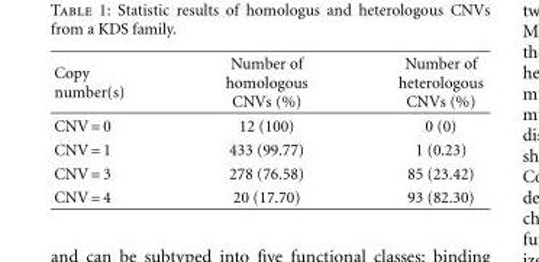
<table><thead><tr><td>Copy number(s)</td><td>Number of homologous CNVs (%)</td><td>Number of heterologous CNVs (%)</td></tr></thead><tbody><tr><td>CNV = 0</td><td>12 (100)</td><td>0 (0)</td></tr><tr><td>CNV = 1</td><td>433 (99.77)</td><td>1 (0.23)</td></tr><tr><td>CNV = 3</td><td>278 (76.58)</td><td>85 (23.42)</td></tr><tr><td>CNV = 4</td><td>20 (17.70)</td><td>93 (82.30)</td></tr></tbody></table>